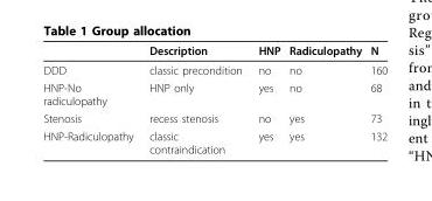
<table><thead><tr><td></td><td>Description</td><td>HNP</td><td>Radiculopathy</td><td>N</td></tr></thead><tbody><tr><td>DDD</td><td>classic precondition</td><td>no</td><td>no</td><td>160</td></tr><tr><td>HNP-No radiculopathy</td><td>HNP only</td><td>yes</td><td>no</td><td>68</td></tr><tr><td>Stenosis</td><td>recess stenosis</td><td>no</td><td>yes</td><td>73</td></tr><tr><td>HNP-Radiculopathy</td><td>classic contraindication</td><td>yes</td><td>yes</td><td>132</td></tr></tbody></table>